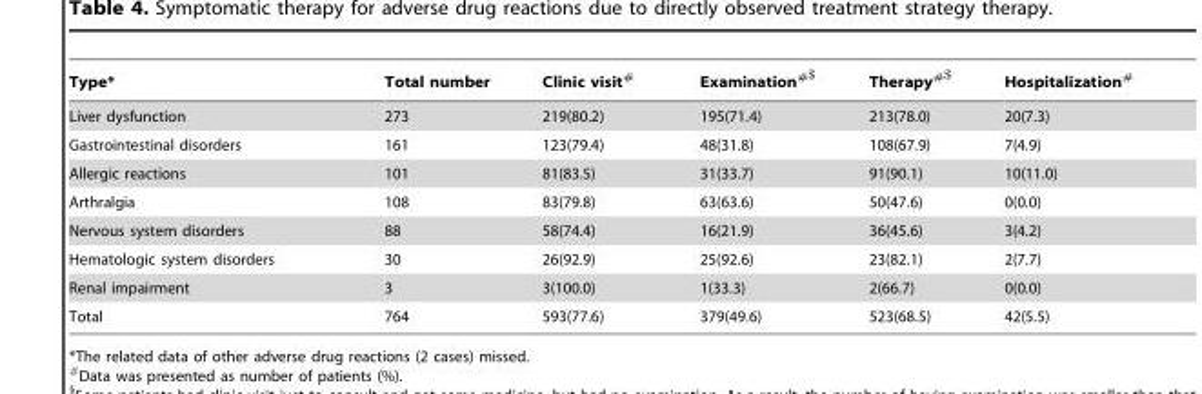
<table><thead><tr><td>Type*</td><td>Total number</td><td>Clinic visit#</td><td>Examination<sup>#$</sup></td><td>Therapy<sup>#$</sup></td><td>Hospitalization#</td></tr></thead><tbody><tr><td>Liver dysfunction</td><td>273</td><td>219(80.2)</td><td>195(71.4)</td><td>213(78.0)</td><td>20(7.3)</td></tr><tr><td>Gastrointestinal disorders</td><td>161</td><td>123(79.4)</td><td>48(31.8)</td><td>108(67.9)</td><td>7(4.9)</td></tr><tr><td>Allergic reactions</td><td>101</td><td>81(83.5)</td><td>31(33.7)</td><td>91(90.1)</td><td>10(11.0)</td></tr><tr><td>Arthralgia</td><td>108</td><td>83(79.8)</td><td>63(63.6)</td><td>50(47.6)</td><td>0(0.0)</td></tr><tr><td>Nervous system disorders</td><td>88</td><td>58(74.4)</td><td>16(21.9)</td><td>36(45.6)</td><td>3(4.2)</td></tr><tr><td>Hematologic system disorders</td><td>30</td><td>26(92.9)</td><td>25(92.6)</td><td>23(82.1)</td><td>2(7.7)</td></tr><tr><td>Renal impairment</td><td>3</td><td>3(100.0)</td><td>1(33.3)</td><td>2(66.7)</td><td>0(0.0)</td></tr><tr><td>Total</td><td>764</td><td>593(77.6)</td><td>379(49.6)</td><td>523(68.5)</td><td>42(5.5)</td></tr></tbody></table>